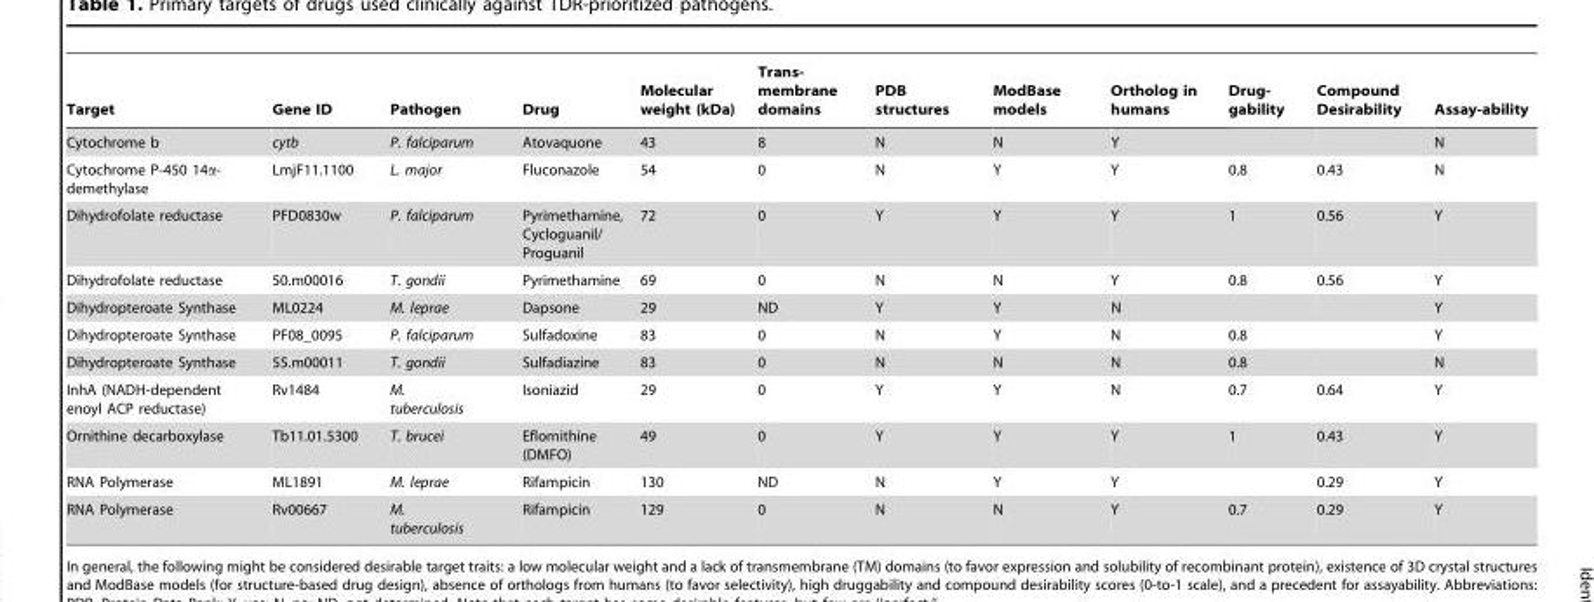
<table><thead><tr><td>Target</td><td>Gene ID</td><td>Pathogen</td><td>Drug</td><td>Molecular weight (kDa)</td><td>Trans- membrane domains</td><td>PDB structures</td><td>ModBase models</td><td>Ortholog in humans</td><td>Drug- gability</td><td>Compound Desirability</td><td>Assay-ability</td></tr></thead><tbody><tr><td>Cytochrome b</td><td>cytb</td><td>P. falciparum</td><td>Atovaquone</td><td>43</td><td>8</td><td>N</td><td>N</td><td>Y</td><td></td><td></td><td>N</td></tr><tr><td>Cytochrome P-450 14α- demethylase</td><td>LmjF11.1100</td><td>L. major</td><td>Fluconazole</td><td>54</td><td>0</td><td>N</td><td>Y</td><td>Y</td><td>0.8</td><td>0.43</td><td>N</td></tr><tr><td>Dihydrofolate reductase</td><td>PFD0830w</td><td>P. falciparum</td><td>Pyrimethamine, Cycloguanil/ Proguanil</td><td>72</td><td>0</td><td>Y</td><td>Y</td><td>Y</td><td>1</td><td>0.56</td><td>Y</td></tr><tr><td>Dihydrofolate reductase</td><td>50.m00016</td><td>T. gondii</td><td>Pyrimethamine</td><td>69</td><td>0</td><td>N</td><td>N</td><td>Y</td><td>0.8</td><td>0.56</td><td>Y</td></tr><tr><td>Dihydropteroate Synthase</td><td>ML0224</td><td>M. leprae</td><td>Dapsone</td><td>29</td><td>ND</td><td>Y</td><td>Y</td><td>N</td><td></td><td></td><td>Y</td></tr><tr><td>Dihydropteroate Synthase</td><td>PF08_0095</td><td>P. falciparum</td><td>Sulfadoxine</td><td>83</td><td>0</td><td>N</td><td>Y</td><td>N</td><td>0.8</td><td></td><td>Y</td></tr><tr><td>Dihydropteroate Synthase</td><td>55.m00011</td><td>T. gondii</td><td>Sulfadiazine</td><td>83</td><td>0</td><td>N</td><td>N</td><td>N</td><td>0.8</td><td></td><td>N</td></tr><tr><td>InhA (NADH-dependent enoyl ACP reductase)</td><td>Rv1484</td><td>M. tuberculosis</td><td>Isoniazid</td><td>29</td><td>0</td><td>Y</td><td>Y</td><td>N</td><td>0.7</td><td>0.64</td><td>Y</td></tr><tr><td>Ornithine decarboxylase</td><td>Tb11.01.5300</td><td>T. brucei</td><td>Eflornithine (DMFO)</td><td>49</td><td>0</td><td>Y</td><td>Y</td><td>Y</td><td>1</td><td>0.43</td><td>Y</td></tr><tr><td>RNA Polymerase</td><td>ML1891</td><td>M. leprae</td><td>Rifampicin</td><td>130</td><td>ND</td><td>N</td><td>Y</td><td>Y</td><td></td><td>0.29</td><td>Y</td></tr><tr><td>RNA Polymerase</td><td>Rv00667</td><td>M. tuberculosis</td><td>Rifampicin</td><td>129</td><td>0</td><td>N</td><td>N</td><td>Y</td><td>0.7</td><td>0.29</td><td>Y</td></tr></tbody></table>